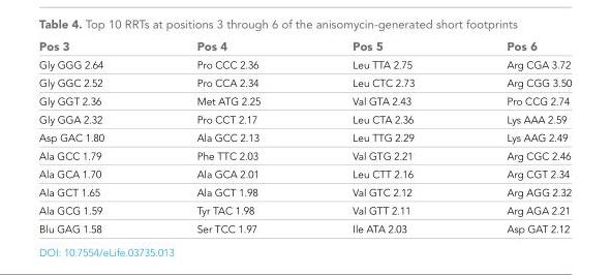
<table><thead><tr><td>Pos 3</td><td>Pos 4</td><td>Pos 5</td><td>Pos 6</td></tr></thead><tbody><tr><td>Gly GGG 2.64</td><td>Pro CCC 2.36</td><td>Leu TTA 2.75</td><td>Arg CGA 3.72</td></tr><tr><td>Gly GGC 2.52</td><td>Pro CCA 2.34</td><td>Leu CTC 2.73</td><td>Arg CGG 3.50</td></tr><tr><td>Gly GGT 2.36</td><td>Met ATG 2.25</td><td>Val GTA 2.43</td><td>Pro CCG 2.74</td></tr><tr><td>Gly GGA 2.32</td><td>Pro CCT 2.17</td><td>Leu CTA 2.36</td><td>Lys AAA 2.59</td></tr><tr><td>Asp GAC 1.80</td><td>Ala GCC 2.13</td><td>Leu TTG 2.29</td><td>Lys AAG 2.49</td></tr><tr><td>Ala GCC 1.79</td><td>Phe TTC 2.03</td><td>Val GTG 2.21</td><td>Arg CGC 2.46</td></tr><tr><td>Ala GCA 1.70</td><td>Ala GCA 2.01</td><td>Leu CTT 2.16</td><td>Arg CGT 2.34</td></tr><tr><td>Ala GCT 1.65</td><td>Ala GCT 1.98</td><td>Val GTC 2.12</td><td>Arg AGG 2.32</td></tr><tr><td>Ala GCG 1.59</td><td>Tyr TAC 1.98</td><td>Val GTT 2.11</td><td>Arg AGA 2.21</td></tr><tr><td>Blu GAG 1.58</td><td>Ser TCC 1.97</td><td>Ile ATA 2.03</td><td>Asp GAT 2.12</td></tr></tbody></table>